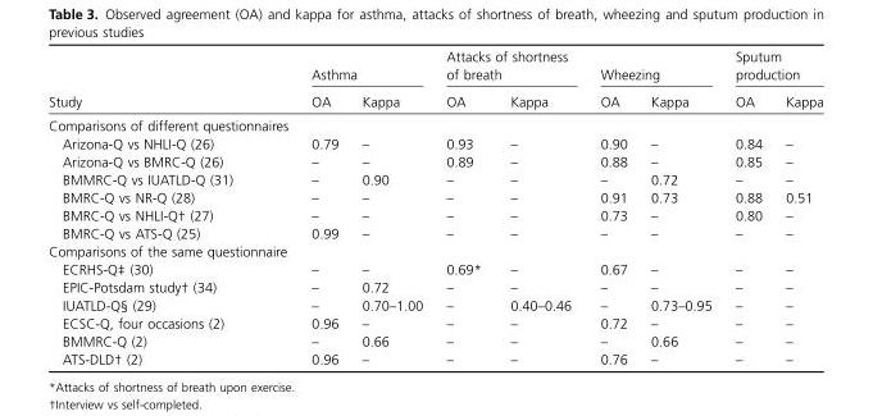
<table><thead><tr><td rowspan="2">Study</td><td colspan="2">Asthma</td><td colspan="2">Attacks of shortness of breath</td><td colspan="2">Wheezing</td><td colspan="2">Sputum production</td></tr><tr><td>OA</td><td>Kappa</td><td>OA</td><td>Kappa</td><td>OA</td><td>Kappa</td><td>OA</td><td>Kappa</td></tr></thead><tbody><tr><td colspan="9">Comparisons of different questionnaires</td></tr><tr><td>Arizona-Q vs NHLI-Q (26)</td><td>0.79</td><td>–</td><td>0.93</td><td>–</td><td>0.90</td><td>–</td><td>0.84</td><td>–</td></tr><tr><td>Arizona-Q vs BMRC-Q (26)</td><td>–</td><td>–</td><td>0.89</td><td>–</td><td>0.88</td><td>–</td><td>0.85</td><td>–</td></tr><tr><td>BMMRC-Q vs IUATLD-Q (31)</td><td>–</td><td>0.90</td><td>–</td><td>–</td><td>–</td><td>0.72</td><td>–</td><td>–</td></tr><tr><td>BMRC-Q vs NR-Q (28)</td><td>–</td><td>–</td><td>–</td><td>–</td><td>0.91</td><td>0.73</td><td>0.88</td><td>0.51</td></tr><tr><td>BMRC-Q vs NHLI-Q† (27)</td><td>–</td><td>–</td><td>–</td><td>–</td><td>0.73</td><td>–</td><td>0.80</td><td>–</td></tr><tr><td>BMRC-Q vs ATS-Q (25)</td><td>0.99</td><td>–</td><td>–</td><td>–</td><td>–</td><td>–</td><td>–</td><td>–</td></tr><tr><td colspan="9">Comparisons of the same questionnaire</td></tr><tr><td>ECRHS-Q‡ (30)</td><td>–</td><td>–</td><td>0.69*</td><td>–</td><td>0.67</td><td>–</td><td>–</td><td>–</td></tr><tr><td>EPIC-Potsdam study† (34)</td><td>–</td><td>0.72</td><td>–</td><td>–</td><td>–</td><td>–</td><td>–</td><td>–</td></tr><tr><td>IUATLD-Q§ (29)</td><td>–</td><td>0.70–1.00</td><td>–</td><td>0.40–0.46</td><td>–</td><td>0.73–0.95</td><td>–</td><td>–</td></tr><tr><td>ECSC-Q, four occasions (2)</td><td>0.96</td><td>–</td><td>–</td><td>–</td><td>0.72</td><td>–</td><td>–</td><td>–</td></tr><tr><td>BMMRC-Q (2)</td><td>–</td><td>0.66</td><td>–</td><td>–</td><td>–</td><td>0.66</td><td>–</td><td>–</td></tr><tr><td>ATS-DLD† (2)</td><td>0.96</td><td>–</td><td>–</td><td>–</td><td>0.76</td><td>–</td><td>–</td><td>–</td></tr></tbody></table>